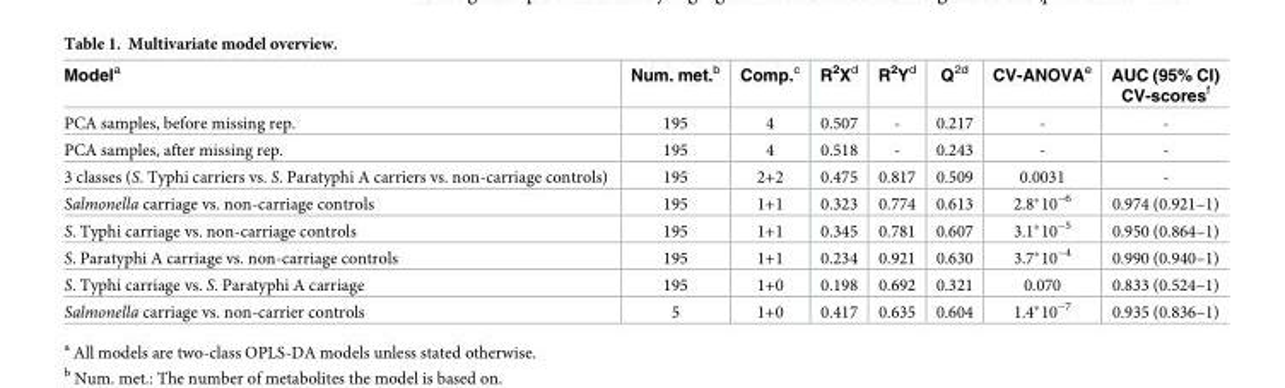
<table><thead><tr><td>Model<sup>a</sup></td><td>Num. met.<sup>b</sup></td><td>Comp.<sup>c</sup></td><td>R<sup>2</sup>X<sup>d</sup></td><td>R<sup>2</sup>Y<sup>d</sup></td><td>Q<sup>2d</sup></td><td>CV-ANOVA<sup>e</sup></td><td>AUC (95% CI) CV-scores<sup>f</sup></td></tr></thead><tbody><tr><td>PCA samples, before missing rep.</td><td>195</td><td>4</td><td>0.507</td><td>-</td><td>0.217</td><td>-</td><td>-</td></tr><tr><td>PCA samples, after missing rep.</td><td>195</td><td>4</td><td>0.518</td><td>-</td><td>0.243</td><td>-</td><td>-</td></tr><tr><td>3 classes (S. Typhi carriers vs. S. Paratyphi A carriers vs. non-carriage controls)</td><td>195</td><td>2+2</td><td>0.475</td><td>0.817</td><td>0.509</td><td>0.0031</td><td>-</td></tr><tr><td>Salmonella carriage vs. non-carriage controls</td><td>195</td><td>1+1</td><td>0.323</td><td>0.774</td><td>0.613</td><td>2.8*10<sup>−6</sup></td><td>0.974 (0.921–1)</td></tr><tr><td>S. Typhi carriage vs. non-carriage controls</td><td>195</td><td>1+1</td><td>0.345</td><td>0.781</td><td>0.607</td><td>3.1*10<sup>−5</sup></td><td>0.950 (0.864–1)</td></tr><tr><td>S. Paratyphi A carriage vs. non-carriage controls</td><td>195</td><td>1+1</td><td>0.234</td><td>0.921</td><td>0.630</td><td>3.7*10<sup>−4</sup></td><td>0.990 (0.940–1)</td></tr><tr><td>S. Typhi carriage vs. S. Paratyphi A carriage</td><td>195</td><td>1+0</td><td>0.198</td><td>0.692</td><td>0.321</td><td>0.070</td><td>0.833 (0.524–1)</td></tr><tr><td>Salmonella carriage vs. non-carrier controls</td><td>5</td><td>1+0</td><td>0.417</td><td>0.635</td><td>0.604</td><td>1.4*10<sup>−7</sup></td><td>0.935 (0.836–1)</td></tr></tbody></table>